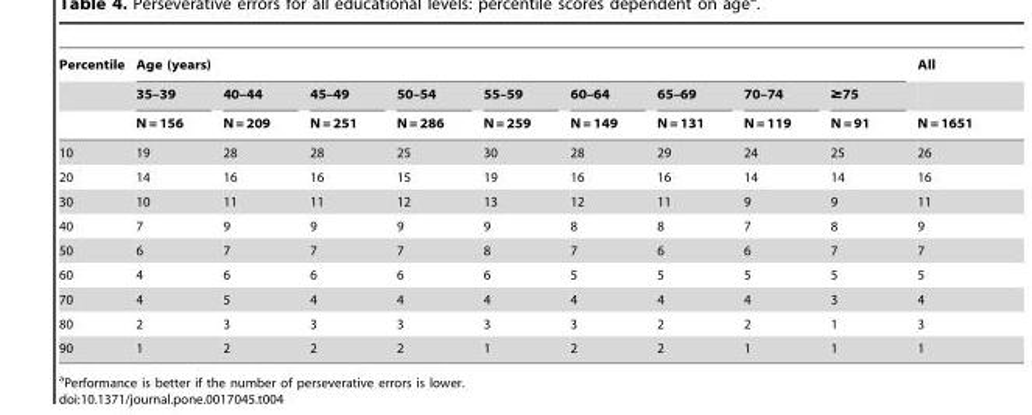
<table><thead><tr><td rowspan="3">Percentile</td><td colspan="9">Age (years)</td><td rowspan="3">All N = 1651</td></tr><tr><td rowspan="2">35–39 N = 156</td><td rowspan="2">40–44 N = 209</td><td rowspan="2">45–49 N = 251</td><td rowspan="2">50–54 N = 286</td><td rowspan="2">55–59 N = 259</td><td rowspan="2">60–64 N = 149</td><td rowspan="2">65–69 N = 131</td><td rowspan="2">70–74 N = 119</td><td rowspan="2">≥75 N = 91</td></tr><tr></tr></thead><tbody><tr><td>10</td><td>19</td><td>28</td><td>28</td><td>25</td><td>30</td><td>28</td><td>29</td><td>24</td><td>25</td><td>26</td></tr><tr><td>20</td><td>14</td><td>16</td><td>16</td><td>15</td><td>19</td><td>16</td><td>16</td><td>14</td><td>14</td><td>16</td></tr><tr><td>30</td><td>10</td><td>11</td><td>11</td><td>12</td><td>13</td><td>12</td><td>11</td><td>9</td><td>9</td><td>11</td></tr><tr><td>40</td><td>7</td><td>9</td><td>9</td><td>9</td><td>9</td><td>8</td><td>8</td><td>7</td><td>8</td><td>9</td></tr><tr><td>50</td><td>6</td><td>7</td><td>7</td><td>7</td><td>8</td><td>7</td><td>6</td><td>6</td><td>7</td><td>7</td></tr><tr><td>60</td><td>4</td><td>6</td><td>6</td><td>6</td><td>6</td><td>5</td><td>5</td><td>5</td><td>5</td><td>5</td></tr><tr><td>70</td><td>4</td><td>5</td><td>4</td><td>4</td><td>4</td><td>4</td><td>4</td><td>4</td><td>3</td><td>4</td></tr><tr><td>80</td><td>2</td><td>3</td><td>3</td><td>3</td><td>3</td><td>3</td><td>2</td><td>2</td><td>1</td><td>3</td></tr><tr><td>90</td><td>1</td><td>2</td><td>2</td><td>2</td><td>1</td><td>2</td><td>2</td><td>1</td><td>1</td><td>1</td></tr></tbody></table>